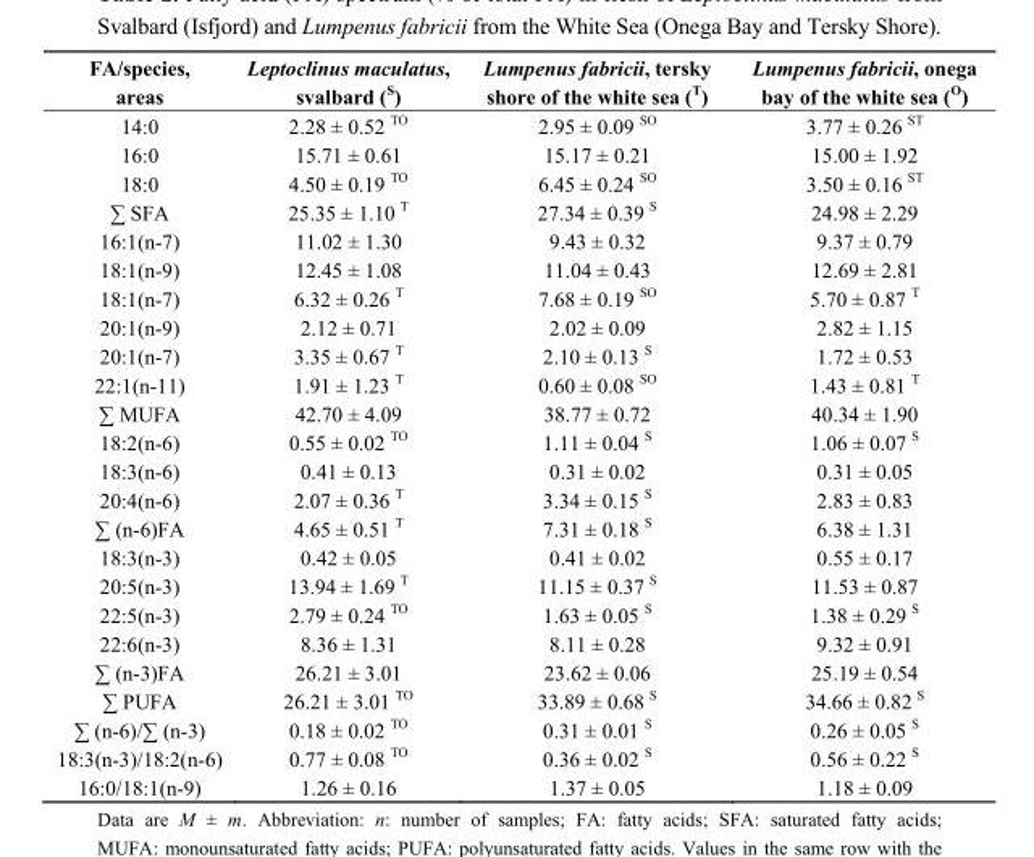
<table><thead><tr><td>FA/species, areas</td><td>Leptoclinus maculatus, svalbard (S)</td><td>Lumpenus fabricii, tersky shore of the white sea (T)</td><td>Lumpenus fabricii, onega bay of the white sea (O)</td></tr></thead><tbody><tr><td>14:0</td><td>2.28 ± 0.52 ТО</td><td>2.95 ± 0.09 SО</td><td>3.77 ± 0.26 SТ</td></tr><tr><td>16:0</td><td>15.71 ± 0.61</td><td>15.17 ± 0.21</td><td>15.00 ± 1.92</td></tr><tr><td>18:0</td><td>4.50 ± 0.19 ТО</td><td>6.45 ± 0.24 SО</td><td>3.50 ± 0.16 SТ</td></tr><tr><td>∑ SFA</td><td>25.35 ± 1.10 Т</td><td>27.34 ± 0.39 S</td><td>24.98 ± 2.29</td></tr><tr><td>16:1(n-7)</td><td>11.02 ± 1.30</td><td>9.43 ± 0.32</td><td>9.37 ± 0.79</td></tr><tr><td>18:1(n-9)</td><td>12.45 ± 1.08</td><td>11.04 ± 0.43</td><td>12.69 ± 2.81</td></tr><tr><td>18:1(n-7)</td><td>6.32 ± 0.26 Т</td><td>7.68 ± 0.19 SО</td><td>5.70 ± 0.87 Т</td></tr><tr><td>20:1(n-9)</td><td>2.12 ± 0.71</td><td>2.02 ± 0.09</td><td>2.82 ± 1.15</td></tr><tr><td>20:1(n-7)</td><td>3.35 ± 0.67 Т</td><td>2.10 ± 0.13 S</td><td>1.72 ± 0.53</td></tr><tr><td>22:1(n-11)</td><td>1.91 ± 1.23 Т</td><td>0.60 ± 0.08 SО</td><td>1.43 ± 0.81 Т</td></tr><tr><td>∑ MUFA</td><td>42.70 ± 4.09</td><td>38.77 ± 0.72</td><td>40.34 ± 1.90</td></tr><tr><td>18:2(n-6)</td><td>0.55 ± 0.02 ТО</td><td>1.11 ± 0.04 S</td><td>1.06 ± 0.07 S</td></tr><tr><td>18:3(n-6)</td><td>0.41 ± 0.13</td><td>0.31 ± 0.02</td><td>0.31 ± 0.05</td></tr><tr><td>20:4(n-6)</td><td>2.07 ± 0.36 Т</td><td>3.34 ± 0.15 S</td><td>2.83 ± 0.83</td></tr><tr><td>∑ (n-6)FA</td><td>4.65 ± 0.51 Т</td><td>7.31 ± 0.18 S</td><td>6.38 ± 1.31</td></tr><tr><td>18:3(n-3)</td><td>0.42 ± 0.05</td><td>0.41 ± 0.02</td><td>0.55 ± 0.17</td></tr><tr><td>20:5(n-3)</td><td>13.94 ± 1.69 Т</td><td>11.15 ± 0.37 S</td><td>11.53 ± 0.87</td></tr><tr><td>22:5(n-3)</td><td>2.79 ± 0.24 ТО</td><td>1.63 ± 0.05 S</td><td>1.38 ± 0.29 S</td></tr><tr><td>22:6(n-3)</td><td>8.36 ± 1.31</td><td>8.11 ± 0.28</td><td>9.32 ± 0.91</td></tr><tr><td>∑ (n-3)FA</td><td>26.21 ± 3.01</td><td>23.62 ± 0.06</td><td>25.19 ± 0.54</td></tr><tr><td>∑ PUFA</td><td>26.21 ± 3.01 ТО</td><td>33.89 ± 0.68 S</td><td>34.66 ± 0.82 S</td></tr><tr><td>∑ (n-6)/∑ (n-3)</td><td>0.18 ± 0.02 ТО</td><td>0.31 ± 0.01 S</td><td>0.26 ± 0.05 S</td></tr><tr><td>18:3(n-3)/18:2(n-6)</td><td>0.77 ± 0.08 ТО</td><td>0.36 ± 0.02 S</td><td>0.56 ± 0.22 S</td></tr><tr><td>16:0/18:1(n-9)</td><td>1.26 ± 0.16</td><td>1.37 ± 0.05</td><td>1.18 ± 0.09</td></tr></tbody></table>